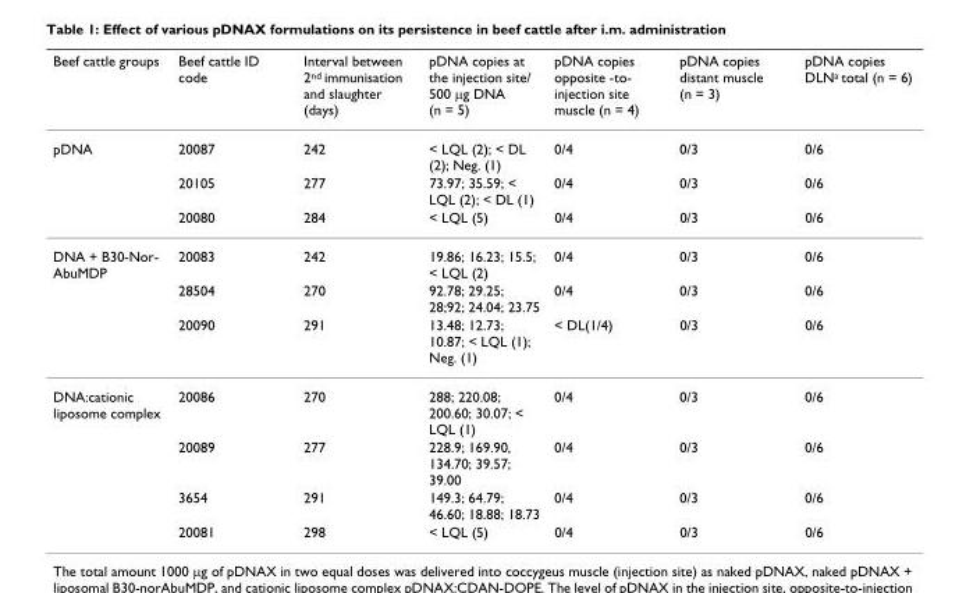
<table><thead><tr><td>Beef cattle groups</td><td>Beef cattle ID code</td><td>Interval between 2<sup>nd</sup> immunisation and slaughter (days)</td><td>pDNA copies at the injection site/ 500 μg DNA (n = 5)</td><td>pDNA copies opposite -to- injection site muscle (n = 4)</td><td>pDNA copies distant muscle (n = 3)</td><td>pDNA copies DLN<sup>a</sup> total (n = 6)</td></tr></thead><tbody><tr><td rowspan="3">pDNA</td><td>20087</td><td>242</td><td>&lt; LQL (2); &lt; DL (2); Neg. (1)</td><td>0/4</td><td>0/3</td><td>0/6</td></tr><tr><td>20105</td><td>277</td><td>73.97; 35.59; &lt; LQL (2); &lt; DL (1)</td><td>0/4</td><td>0/3</td><td>0/6</td></tr><tr><td>20080</td><td>284</td><td>&lt; LQL (5)</td><td>0/4</td><td>0/3</td><td>0/6</td></tr><tr><td rowspan="3">DNA + B30-Nor- AbuMDP</td><td>20083</td><td>242</td><td>19.86; 16.23; 15.5; &lt; LQL (2)</td><td>0/4</td><td>0/3</td><td>0/6</td></tr><tr><td>28504</td><td>270</td><td>92.78; 29.25; 28;92; 24.04; 23.75</td><td>0/4</td><td>0/3</td><td>0/6</td></tr><tr><td>20090</td><td>291</td><td>13.48; 12.73; 10.87; &lt; LQL (1); Neg. (1)</td><td>&lt; DL(1/4)</td><td>0/3</td><td>0/6</td></tr><tr><td rowspan="4">DNA:cationic liposome complex</td><td>20086</td><td>270</td><td>288; 220.08; 200.60; 30.07; &lt; LQL (1)</td><td>0/4</td><td>0/3</td><td>0/6</td></tr><tr><td>20089</td><td>277</td><td>228.9; 169.90, 134.70; 39.57; 39.00</td><td>0/4</td><td>0/3</td><td>0/6</td></tr><tr><td>3654</td><td>291</td><td>149.3; 64.79; 46.60; 18.88; 18.73</td><td>0/4</td><td>0/3</td><td>0/6</td></tr><tr><td>20081</td><td>298</td><td>&lt; LQL (5)</td><td>0/4</td><td>0/3</td><td>0/6</td></tr></tbody></table>